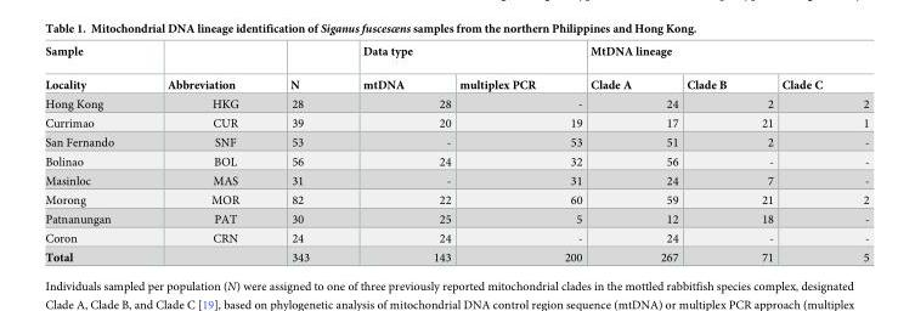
<table><thead><tr><td rowspan="2">Sample Locality</td><td rowspan="2">Abbreviation</td><td rowspan="2">N</td><td colspan="2">Data type</td><td colspan="3">MtDNA lineage</td></tr><tr><td>mtDNA</td><td>multiplex PCR</td><td>Clade A</td><td>Clade B</td><td>Clade C</td></tr></thead><tbody><tr><td>Hong Kong</td><td>HKG</td><td>28</td><td>28</td><td>-</td><td>24</td><td>2</td><td>2</td></tr><tr><td>Currimao</td><td>CUR</td><td>39</td><td>20</td><td>19</td><td>17</td><td>21</td><td>1</td></tr><tr><td>San Fernando</td><td>SNF</td><td>53</td><td>-</td><td>53</td><td>51</td><td>2</td><td>-</td></tr><tr><td>Bolinao</td><td>BOL</td><td>56</td><td>24</td><td>32</td><td>56</td><td>-</td><td>-</td></tr><tr><td>Masinloc</td><td>MAS</td><td>31</td><td>-</td><td>31</td><td>24</td><td>7</td><td>-</td></tr><tr><td>Morong</td><td>MOR</td><td>82</td><td>22</td><td>60</td><td>59</td><td>21</td><td>2</td></tr><tr><td>Patnanungan</td><td>PAT</td><td>30</td><td>25</td><td>5</td><td>12</td><td>18</td><td>-</td></tr><tr><td>Coron</td><td>CRN</td><td>24</td><td>24</td><td>-</td><td>24</td><td>-</td><td>-</td></tr><tr><td>Total</td><td></td><td>343</td><td>143</td><td>200</td><td>267</td><td>71</td><td>5</td></tr></tbody></table>